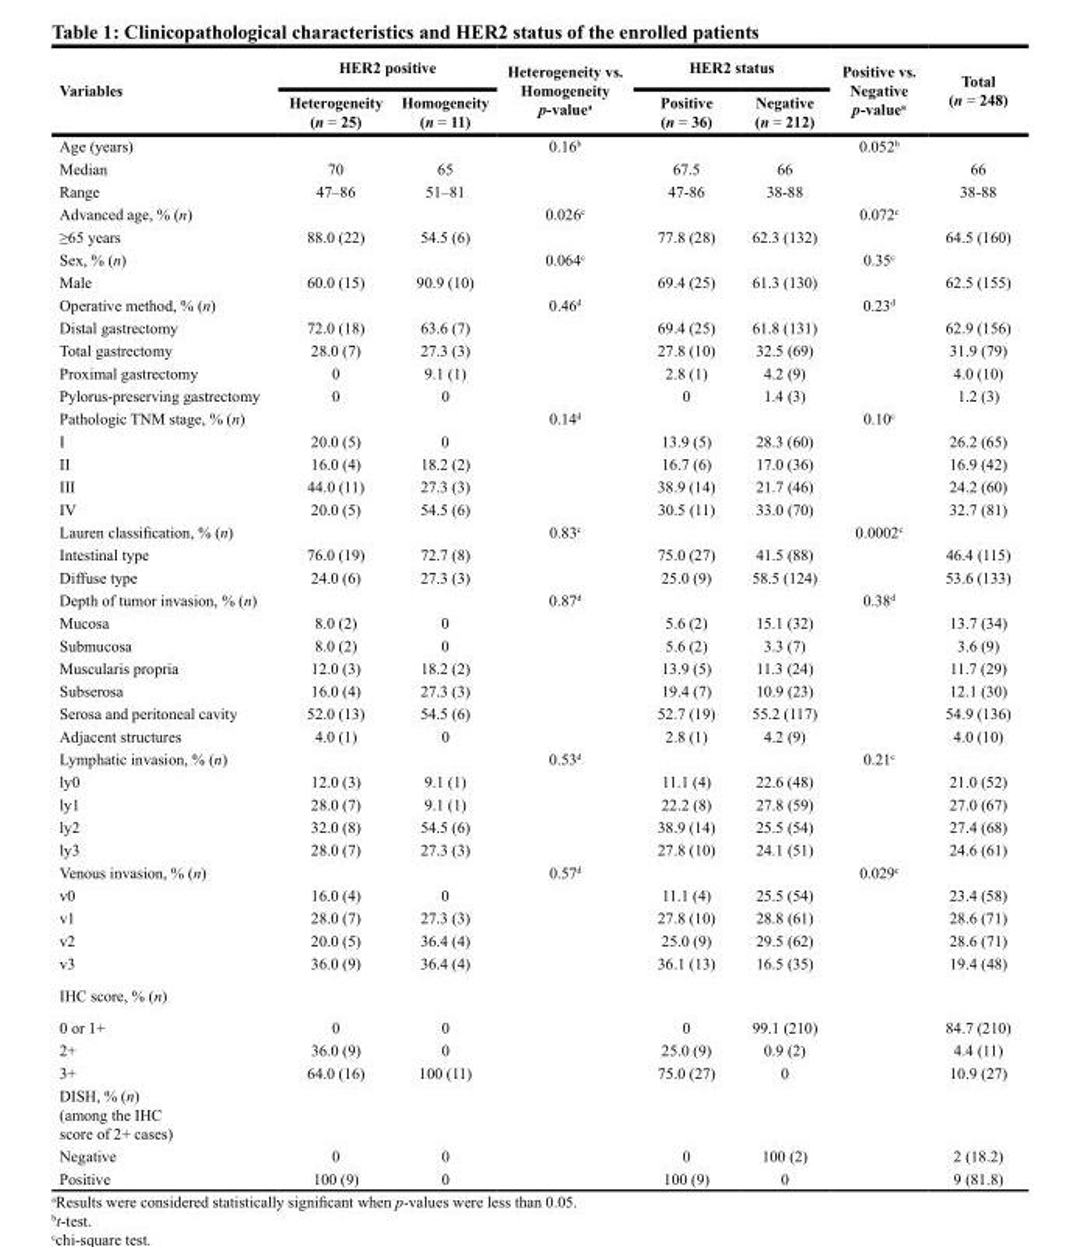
<table><thead><tr><td rowspan="2">Variables</td><td colspan="2">HER2 positive</td><td rowspan="2">Heterogeneity vs. Homogeneity p-value<sup>a</sup></td><td colspan="2">HER2 status</td><td rowspan="2">Positive vs. Negative p-value<sup>a</sup></td><td rowspan="2">Total (n = 248)</td></tr><tr><td>Heterogeneity (n = 25)</td><td>Homogeneity (n = 11)</td><td>Positive (n = 36)</td><td>Negative (n = 212)</td></tr></thead><tbody><tr><td>Age (years)</td><td colspan="2"></td><td>0.16<sup>b</sup></td><td colspan="2"></td><td>0.052<sup>b</sup></td><td></td></tr><tr><td>Median</td><td>70</td><td>65</td><td></td><td>67.5</td><td>66</td><td></td><td>66</td></tr><tr><td>Range</td><td>47–86</td><td>51–81</td><td></td><td>47-86</td><td>38-88</td><td></td><td>38-88</td></tr><tr><td>Advanced age, % (n)</td><td></td><td></td><td>0.026<sup>c</sup></td><td></td><td></td><td>0.072<sup>c</sup></td><td></td></tr><tr><td>≥65 years</td><td>88.0 (22)</td><td>54.5 (6)</td><td></td><td>77.8 (28)</td><td>62.3 (132)</td><td></td><td>64.5 (160)</td></tr><tr><td>Sex, % (n)</td><td></td><td></td><td>0.064<sup>c</sup></td><td></td><td></td><td>0.35<sup>c</sup></td><td></td></tr><tr><td>Male</td><td>60.0 (15)</td><td>90.9 (10)</td><td></td><td>69.4 (25)</td><td>61.3 (130)</td><td></td><td>62.5 (155)</td></tr><tr><td>Operative method, % (n)</td><td></td><td></td><td>0.46<sup>d</sup></td><td></td><td></td><td>0.23<sup>d</sup></td><td></td></tr><tr><td>Distal gastrectomy</td><td>72.0 (18)</td><td>63.6 (7)</td><td></td><td>69.4 (25)</td><td>61.8 (131)</td><td></td><td>62.9 (156)</td></tr><tr><td>Total gastrectomy</td><td>28.0 (7)</td><td>27.3 (3)</td><td></td><td>27.8 (10)</td><td>32.5 (69)</td><td></td><td>31.9 (79)</td></tr><tr><td>Proximal gastrectomy</td><td>0</td><td>9.1 (1)</td><td></td><td>2.8 (1)</td><td>4.2 (9)</td><td></td><td>4.0 (10)</td></tr><tr><td>Pylorus-preserving gastrectomy</td><td>0</td><td>0</td><td></td><td>0</td><td>1.4 (3)</td><td></td><td>1.2 (3)</td></tr><tr><td>Pathologic TNM stage, % (n)</td><td></td><td></td><td>0.14<sup>d</sup></td><td></td><td></td><td>0.10<sup>c</sup></td><td></td></tr><tr><td>I</td><td>20.0 (5)</td><td>0</td><td></td><td>13.9 (5)</td><td>28.3 (60)</td><td></td><td>26.2 (65)</td></tr><tr><td>II</td><td>16.0 (4)</td><td>18.2 (2)</td><td></td><td>16.7 (6)</td><td>17.0 (36)</td><td></td><td>16.9 (42)</td></tr><tr><td>III</td><td>44.0 (11)</td><td>27.3 (3)</td><td></td><td>38.9 (14)</td><td>21.7 (46)</td><td></td><td>24.2 (60)</td></tr><tr><td>IV</td><td>20.0 (5)</td><td>54.5 (6)</td><td></td><td>30.5 (11)</td><td>33.0 (70)</td><td></td><td>32.7 (81)</td></tr><tr><td>Lauren classifi cation, % (n)</td><td></td><td></td><td>0.83<sup>c</sup></td><td></td><td></td><td>0.0002<sup>c</sup></td><td></td></tr><tr><td>Intestinal type</td><td>76.0 (19)</td><td>72.7 (8)</td><td></td><td>75.0 (27)</td><td>41.5 (88)</td><td></td><td>46.4 (115)</td></tr><tr><td>Diffuse type</td><td>24.0 (6)</td><td>27.3 (3)</td><td></td><td>25.0 (9)</td><td>58.5 (124)</td><td></td><td>53.6 (133)</td></tr><tr><td>Depth of tumor invasion, % (n)</td><td></td><td></td><td>0.87<sup>d</sup></td><td></td><td></td><td>0.38<sup>d</sup></td><td></td></tr><tr><td>Mucosa</td><td>8.0 (2)</td><td>0</td><td></td><td>5.6 (2)</td><td>15.1 (32)</td><td></td><td>13.7 (34)</td></tr><tr><td>Submucosa</td><td>8.0 (2)</td><td>0</td><td></td><td>5.6 (2)</td><td>3.3 (7)</td><td></td><td>3.6 (9)</td></tr><tr><td>Muscularis propria</td><td>12.0 (3)</td><td>18.2 (2)</td><td></td><td>13.9 (5)</td><td>11.3 (24)</td><td></td><td>11.7 (29)</td></tr><tr><td>Subserosa</td><td>16.0 (4)</td><td>27.3 (3)</td><td></td><td>19.4 (7)</td><td>10.9 (23)</td><td></td><td>12.1 (30)</td></tr><tr><td>Serosa and peritoneal cavity</td><td>52.0 (13)</td><td>54.5 (6)</td><td></td><td>52.7 (19)</td><td>55.2 (117)</td><td></td><td>54.9 (136)</td></tr><tr><td>Adjacent structures</td><td>4.0 (1)</td><td>0</td><td></td><td>2.8 (1)</td><td>4.2 (9)</td><td></td><td>4.0 (10)</td></tr><tr><td>Lymphatic invasion, % (n)</td><td></td><td></td><td>0.53<sup>d</sup></td><td></td><td></td><td>0.21<sup>c</sup></td><td></td></tr><tr><td>ly0</td><td>12.0 (3)</td><td>9.1 (1)</td><td></td><td>11.1 (4)</td><td>22.6 (48)</td><td></td><td>21.0 (52)</td></tr><tr><td>ly1</td><td>28.0 (7)</td><td>9.1 (1)</td><td></td><td>22.2 (8)</td><td>27.8 (59)</td><td></td><td>27.0 (67)</td></tr><tr><td>ly2</td><td>32.0 (8)</td><td>54.5 (6)</td><td></td><td>38.9 (14)</td><td>25.5 (54)</td><td></td><td>27.4 (68)</td></tr><tr><td>ly3</td><td>28.0 (7)</td><td>27.3 (3)</td><td></td><td>27.8 (10)</td><td>24.1 (51)</td><td></td><td>24.6 (61)</td></tr><tr><td>Venous invasion, % (n)</td><td></td><td></td><td>0.57<sup>d</sup></td><td></td><td></td><td>0.029<sup>c</sup></td><td></td></tr><tr><td>v0</td><td>16.0 (4)</td><td>0</td><td></td><td>11.1 (4)</td><td>25.5 (54)</td><td></td><td>23.4 (58)</td></tr><tr><td>v1</td><td>28.0 (7)</td><td>27.3 (3)</td><td></td><td>27.8 (10)</td><td>28.8 (61)</td><td></td><td>28.6 (71)</td></tr><tr><td>v2</td><td>20.0 (5)</td><td>36.4 (4)</td><td></td><td>25.0 (9)</td><td>29.5 (62)</td><td></td><td>28.6 (71)</td></tr><tr><td>v3</td><td>36.0 (9)</td><td>36.4 (4)</td><td></td><td>36.1 (13)</td><td>16.5 (35)</td><td></td><td>19.4 (48)</td></tr><tr><td colspan="8">IHC score, % (n)</td></tr><tr><td>0 or 1+</td><td>0</td><td>0</td><td></td><td>0</td><td>99.1 (210)</td><td></td><td>84.7 (210)</td></tr><tr><td>2+</td><td>36.0 (9)</td><td>0</td><td></td><td>25.0 (9)</td><td>0.9 (2)</td><td></td><td>4.4 (11)</td></tr><tr><td>3+</td><td>64.0 (16)</td><td>100 (11)</td><td></td><td>75.0 (27)</td><td>0</td><td></td><td>10.9 (27)</td></tr><tr><td colspan="8">DISH, % (n) (among the IHC score of 2+ cases)</td></tr><tr><td>Negative</td><td>0</td><td>0</td><td></td><td>0</td><td>100 (2)</td><td></td><td>2 (18.2)</td></tr><tr><td>Positive</td><td>100 (9)</td><td>0</td><td></td><td>100 (9)</td><td>0</td><td></td><td>9 (81.8)</td></tr></tbody></table>